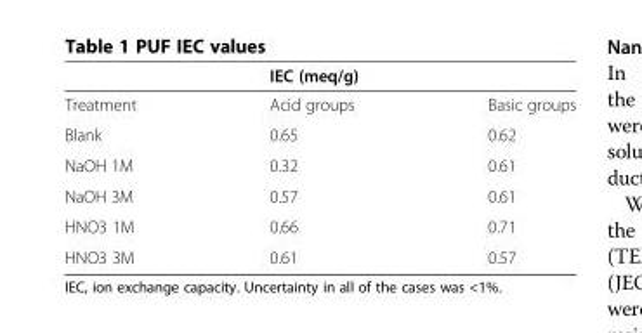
<table><thead><tr><td rowspan="2">Treatment</td><td colspan="2">IEC (meq/g)</td></tr><tr><td>Acid groups</td><td>Basic groups</td></tr></thead><tbody><tr><td>Blank</td><td>0.65</td><td>0.62</td></tr><tr><td>NaOH 1M</td><td>0.32</td><td>0.61</td></tr><tr><td>NaOH 3M</td><td>0.57</td><td>0.61</td></tr><tr><td>HNO3 1M</td><td>0.66</td><td>0.71</td></tr><tr><td>HNO3 3M</td><td>0.61</td><td>0.57</td></tr></tbody></table>